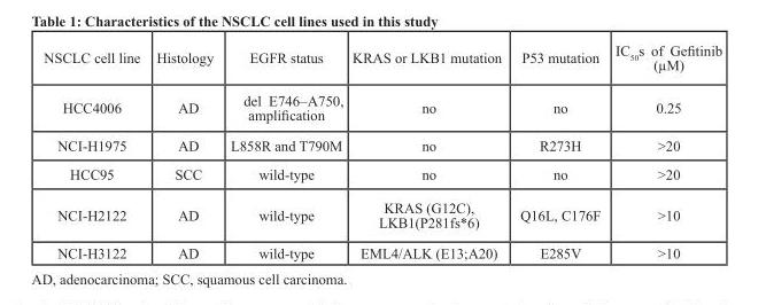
<table><thead><tr><td>NSCLC cell line</td><td>Histology</td><td>EGFR status</td><td>KRAS or LKB1 mutation</td><td>P53 mutation</td><td>IC<sub>50</sub>s of Gefitinib (µM)</td></tr></thead><tbody><tr><td>HCC4006</td><td>AD</td><td>del E746–A750, amplification</td><td>no</td><td>no</td><td>0.25</td></tr><tr><td>NCI-H1975</td><td>AD</td><td>L858R and T790M</td><td>no</td><td>R273H</td><td>&gt;20</td></tr><tr><td>HCC95</td><td>SCC</td><td>wild-type</td><td>no</td><td>no</td><td>&gt;20</td></tr><tr><td>NCI-H2122</td><td>AD</td><td>wild-type</td><td>KRAS (G12C), LKB1(P281fs*6)</td><td>Q16L, C176F</td><td>&gt;10</td></tr><tr><td>NCI-H3122</td><td>AD</td><td>wild-type</td><td>EML4/ALK (E13;A20)</td><td>E285V</td><td>&gt;10</td></tr></tbody></table>